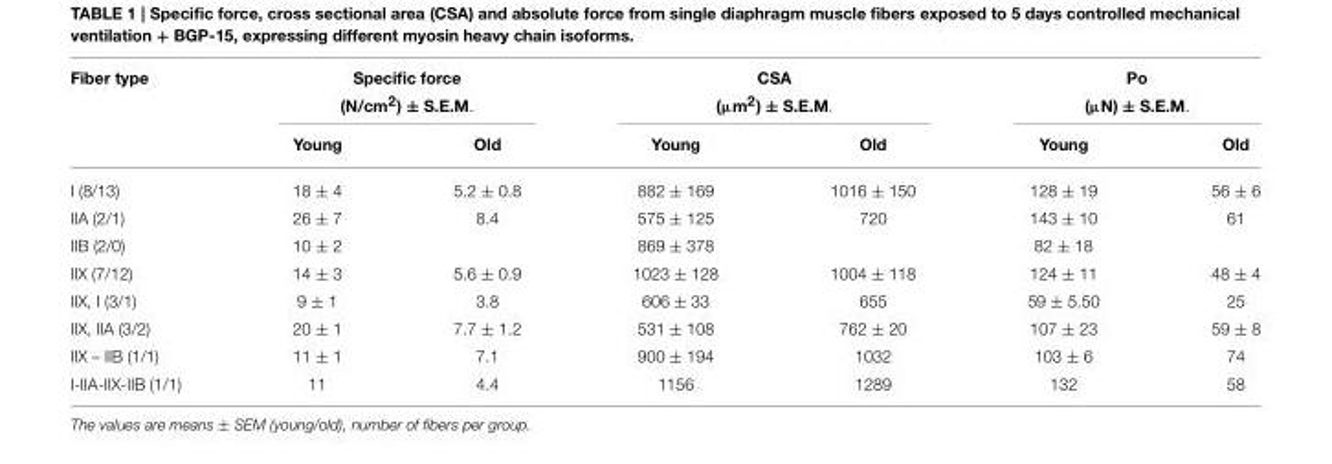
<table><thead><tr><td rowspan="2">Fiber type</td><td colspan="2">Specific force (N/cm<sup>2</sup>) ± S.E.M.</td><td colspan="2">CSA (µm<sup>2</sup>) ± S.E.M.</td><td colspan="2">Po (µN) ± S.E.M.</td></tr><tr><td>Young</td><td>Old</td><td>Young</td><td>Old</td><td>Young</td><td>Old</td></tr></thead><tbody><tr><td>I (8/13)</td><td>18 ± 4</td><td>5.2 ± 0.8</td><td>882 ± 169</td><td>1016 ± 150</td><td>128 ± 19</td><td>56 ± 6</td></tr><tr><td>IIA (2/1)</td><td>26 ± 7</td><td>8.4</td><td>575 ± 125</td><td>720</td><td>143 ± 10</td><td>61</td></tr><tr><td>IIB (2/0)</td><td>10 ± 2</td><td></td><td>869 ± 378</td><td></td><td>82 ± 18</td><td></td></tr><tr><td>IIX (7/12)</td><td>14 ± 3</td><td>5.6 ± 0.9</td><td>1023 ± 128</td><td>1004 ± 118</td><td>124 ± 11</td><td>48 ± 4</td></tr><tr><td>IIX, I (3/1)</td><td>9 ± 1</td><td>3.8</td><td>606 ± 33</td><td>655</td><td>59 ± 5.50</td><td>25</td></tr><tr><td>IIX, IIA (3/2)</td><td>20 ± 1</td><td>7.7 ± 1.2</td><td>531 ± 108</td><td>762 ± 20</td><td>107 ± 23</td><td>59 ± 8</td></tr><tr><td>IIX – IIB (1/1)</td><td>11 ± 1</td><td>7.1</td><td>900 ± 194</td><td>1032</td><td>103 ± 6</td><td>74</td></tr><tr><td>I-IIA-IIX-IIB (1/1)</td><td>11</td><td>4.4</td><td>1156</td><td>1289</td><td>132</td><td>58</td></tr></tbody></table>